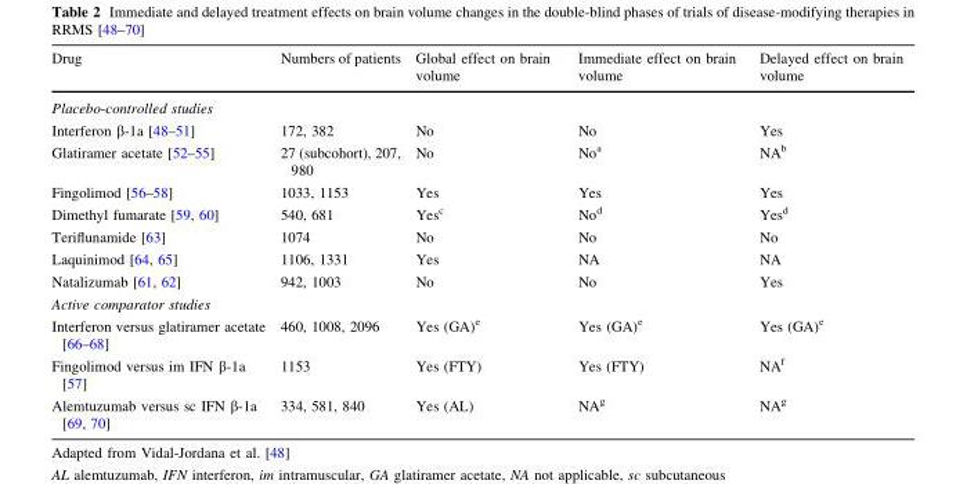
<table><thead><tr><td>Drug</td><td>Numbers of patients</td><td>Global effect on brain volume</td><td>Immediate effect on brain volume</td><td>Delayed effect on brain volume</td></tr></thead><tbody><tr><td colspan="5">Placebo-controlled studies</td></tr><tr><td>Interferon β-1a [48–51]</td><td>172, 382</td><td>No</td><td>No</td><td>Yes</td></tr><tr><td>Glatiramer acetate [52–55]</td><td>27 (subcohort), 207, 980</td><td>No</td><td>No<sup>a</sup></td><td>NA<sup>b</sup></td></tr><tr><td>Fingolimod [56–58]</td><td>1033, 1153</td><td>Yes</td><td>Yes</td><td>Yes</td></tr><tr><td>Dimethyl fumarate [59, 60]</td><td>540, 681</td><td>Yes<sup>c</sup></td><td>No<sup>d</sup></td><td>Yes<sup>d</sup></td></tr><tr><td>Teriflunamide [63]</td><td>1074</td><td>No</td><td>No</td><td>No</td></tr><tr><td>Laquinimod [64, 65]</td><td>1106, 1331</td><td>Yes</td><td>NA</td><td>NA</td></tr><tr><td>Natalizumab [61, 62]</td><td>942, 1003</td><td>No</td><td>No</td><td>Yes</td></tr><tr><td colspan="5">Active comparator studies</td></tr><tr><td>Interferon versus glatiramer acetate [66–68]</td><td>460, 1008, 2096</td><td>Yes (GA)<sup>e</sup></td><td>Yes (GA)<sup>e</sup></td><td>Yes (GA)<sup>e</sup></td></tr><tr><td>Fingolimod versus im IFN β-1a [57]</td><td>1153</td><td>Yes (FTY)</td><td>Yes (FTY)</td><td>NA<sup>f</sup></td></tr><tr><td>Alemtuzumab versus sc IFN β-1a [69, 70]</td><td>334, 581, 840</td><td>Yes (AL)</td><td>NA<sup>g</sup></td><td>NA<sup>g</sup></td></tr></tbody></table>